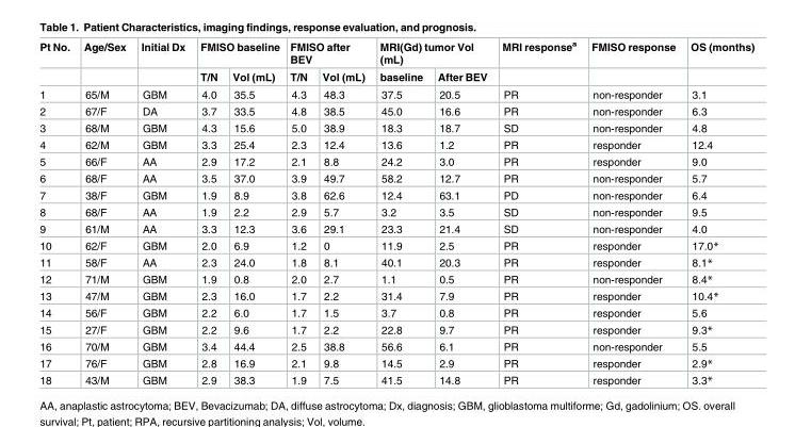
<table><thead><tr><td rowspan="2">Pt No.</td><td rowspan="2">Age/Sex</td><td rowspan="2">Initial Dx</td><td colspan="2">FMISO baseline</td><td colspan="2">FMISO after BEV</td><td colspan="2">MRI(Gd) tumor Vol (mL)</td><td rowspan="2">MRI response<sup>a</sup></td><td rowspan="2">FMISO response</td><td rowspan="2">OS (months)</td></tr><tr><td>T/N</td><td>Vol (mL)</td><td>T/N</td><td>Vol (mL)</td><td>baseline</td><td>After BEV</td></tr></thead><tbody><tr><td>1</td><td>65/M</td><td>GBM</td><td>4.0</td><td>35.5</td><td>4.3</td><td>48.3</td><td>37.5</td><td>20.5</td><td>PR</td><td>non-responder</td><td>3.1</td></tr><tr><td>2</td><td>67/F</td><td>DA</td><td>3.7</td><td>33.5</td><td>4.8</td><td>38.5</td><td>45.0</td><td>16.6</td><td>PR</td><td>non-responder</td><td>6.3</td></tr><tr><td>3</td><td>68/M</td><td>GBM</td><td>4.3</td><td>15.6</td><td>5.0</td><td>38.9</td><td>18.3</td><td>18.7</td><td>SD</td><td>non-responder</td><td>4.8</td></tr><tr><td>4</td><td>62/M</td><td>GBM</td><td>3.3</td><td>25.4</td><td>2.3</td><td>12.4</td><td>13.6</td><td>1.2</td><td>PR</td><td>responder</td><td>12.4</td></tr><tr><td>5</td><td>66/F</td><td>AA</td><td>2.9</td><td>17.2</td><td>2.1</td><td>8.8</td><td>24.2</td><td>3.0</td><td>PR</td><td>responder</td><td>9.0</td></tr><tr><td>6</td><td>68/F</td><td>AA</td><td>3.5</td><td>37.0</td><td>3.9</td><td>49.7</td><td>58.2</td><td>12.7</td><td>PR</td><td>non-responder</td><td>5.7</td></tr><tr><td>7</td><td>38/F</td><td>GBM</td><td>1.9</td><td>8.9</td><td>3.8</td><td>62.6</td><td>12.4</td><td>63.1</td><td>PD</td><td>non-responder</td><td>6.4</td></tr><tr><td>8</td><td>68/F</td><td>AA</td><td>1.9</td><td>2.2</td><td>2.9</td><td>5.7</td><td>3.2</td><td>3.5</td><td>SD</td><td>non-responder</td><td>9.5</td></tr><tr><td>9</td><td>61/M</td><td>AA</td><td>3.3</td><td>12.3</td><td>3.6</td><td>29.1</td><td>23.3</td><td>21.4</td><td>SD</td><td>non-responder</td><td>4.0</td></tr><tr><td>10</td><td>62/F</td><td>GBM</td><td>2.0</td><td>6.9</td><td>1.2</td><td>0</td><td>11.9</td><td>2.5</td><td>PR</td><td>responder</td><td>17.0*</td></tr><tr><td>11</td><td>58/F</td><td>AA</td><td>2.3</td><td>24.0</td><td>1.8</td><td>8.1</td><td>40.1</td><td>20.3</td><td>PR</td><td>responder</td><td>8.1*</td></tr><tr><td>12</td><td>71/M</td><td>GBM</td><td>1.9</td><td>0.8</td><td>2.0</td><td>2.7</td><td>1.1</td><td>0.5</td><td>PR</td><td>non-responder</td><td>8.4*</td></tr><tr><td>13</td><td>47/M</td><td>GBM</td><td>2.3</td><td>16.0</td><td>1.7</td><td>2.2</td><td>31.4</td><td>7.9</td><td>PR</td><td>responder</td><td>10.4*</td></tr><tr><td>14</td><td>56/F</td><td>GBM</td><td>2.2</td><td>6.0</td><td>1.7</td><td>1.5</td><td>3.7</td><td>0.8</td><td>PR</td><td>responder</td><td>5.6</td></tr><tr><td>15</td><td>27/F</td><td>GBM</td><td>2.2</td><td>9.6</td><td>1.7</td><td>2.2</td><td>22.8</td><td>9.7</td><td>PR</td><td>responder</td><td>9.3*</td></tr><tr><td>16</td><td>70/M</td><td>GBM</td><td>3.4</td><td>44.4</td><td>2.5</td><td>38.8</td><td>56.6</td><td>6.1</td><td>PR</td><td>non-responder</td><td>5.5</td></tr><tr><td>17</td><td>76/F</td><td>GBM</td><td>2.8</td><td>16.9</td><td>2.1</td><td>9.8</td><td>14.5</td><td>2.9</td><td>PR</td><td>responder</td><td>2.9*</td></tr><tr><td>18</td><td>43/M</td><td>GBM</td><td>2.9</td><td>38.3</td><td>1.9</td><td>7.5</td><td>41.5</td><td>14.8</td><td>PR</td><td>responder</td><td>3.3*</td></tr></tbody></table>